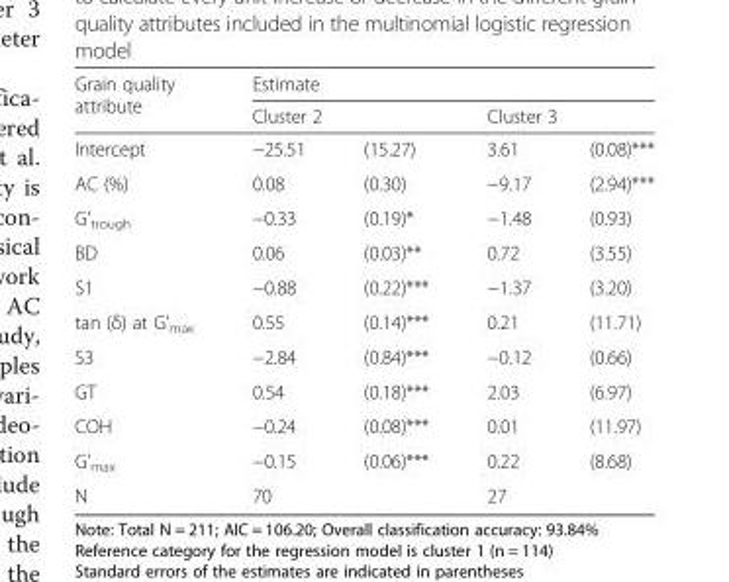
<table><thead><tr><td rowspan="3">Grain quality attribute Intercept</td><td colspan="4">Estimate</td></tr><tr><td colspan="2">Cluster 2</td><td colspan="2">Cluster 3</td></tr><tr><td>−25.51</td><td>(15.27)</td><td>3.61</td><td>(0.08)***</td></tr></thead><tbody><tr><td>AC (%)</td><td>0.08</td><td>(0.30)</td><td>−9.17</td><td>(2.94)***</td></tr><tr><td>G’<sub>trough</sub></td><td>−0.33</td><td>(0.19)*</td><td>−1.48</td><td>(0.93)</td></tr><tr><td>BD</td><td>0.06</td><td>(0.03)**</td><td>0.72</td><td>(3.55)</td></tr><tr><td>S1</td><td>−0.88</td><td>(0.22)***</td><td>−1.37</td><td>(3.20)</td></tr><tr><td>tan (δ) at G’<sub>max</sub></td><td>0.55</td><td>(0.14)***</td><td>0.21</td><td>(11.71)</td></tr><tr><td>S3</td><td>−2.84</td><td>(0.84)***</td><td>−0.12</td><td>(0.66)</td></tr><tr><td>GT</td><td>0.54</td><td>(0.18)***</td><td>2.03</td><td>(6.97)</td></tr><tr><td>COH</td><td>−0.24</td><td>(0.08)***</td><td>0.01</td><td>(11.97)</td></tr><tr><td>G’<sub>max</sub></td><td>−0.15</td><td>(0.06)***</td><td>0.22</td><td>(8.68)</td></tr><tr><td>N</td><td colspan="2">70</td><td colspan="2">27</td></tr></tbody></table>